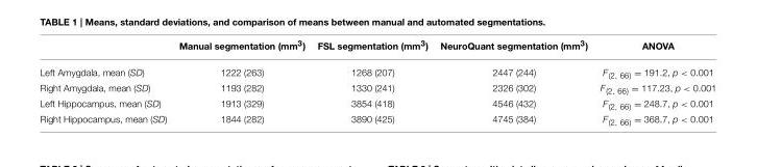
<table><thead><tr><td></td><td>Manual segmentation (mm<sup>3</sup>)</td><td>FSL segmentation (mm<sup>3</sup>)</td><td>NeuroQuant segmentation (mm<sup>3</sup>)</td><td>ANOVA</td></tr></thead><tbody><tr><td>Left Amygdala, mean (SD)</td><td>1222 (263)</td><td>1268 (207)</td><td>2447 (244)</td><td>F(2, 66) = 191.2, p &lt; 0.001</td></tr><tr><td>Right Amygdala, mean (SD)</td><td>1193 (282)</td><td>1330 (241)</td><td>2326 (302)</td><td>F(2, 66) = 117.23, p &lt; 0.001</td></tr><tr><td>Left Hippocampus, mean (SD)</td><td>1913 (329)</td><td>3854 (418)</td><td>4546 (432)</td><td>F(2, 66) = 248.7, p &lt; 0.001</td></tr><tr><td>Right Hippocampus, mean (SD)</td><td>1844 (282)</td><td>3890 (425)</td><td>4745 (384)</td><td>F(2, 66) = 368.7, p &lt; 0.001</td></tr></tbody></table>